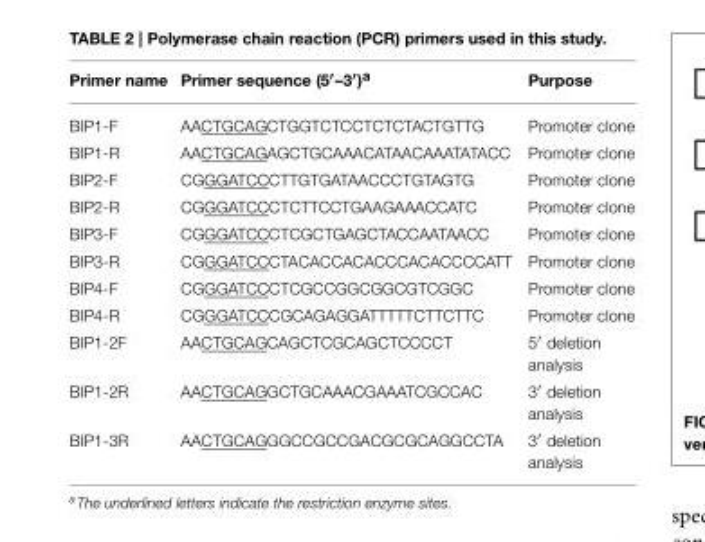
<table><thead><tr><td>Primer name</td><td>Primer sequence (5′–3′)<sup>a</sup></td><td>Purpose</td></tr></thead><tbody><tr><td>BIP1-F</td><td>AACTGCAGCTGGTCTCCTCTCTACTGTTG</td><td>Promoter clone</td></tr><tr><td>BIP1-R</td><td>AACTGCAGAGCTGCAAACATAACAAATATACC</td><td>Promoter clone</td></tr><tr><td>BIP2-F</td><td>CGGGATCCCTTGTGATAACCCTGTAGTG</td><td>Promoter clone</td></tr><tr><td>BIP2-R</td><td>CGGGATCCCTCTTCCTGAAGAAACCATC</td><td>Promoter clone</td></tr><tr><td>BIP3-F</td><td>CGGGATCCCTCGCTGAGCTACCAATAACC</td><td>Promoter clone</td></tr><tr><td>BIP3-R</td><td>CGGGATCCCTACACCACACCCACACCCCATT</td><td>Promoter clone</td></tr><tr><td>BIP4-F</td><td>CGGGATCCCTCGCCGGCGGCGTCGGC</td><td>Promoter clone</td></tr><tr><td>BIP4-R</td><td>CGGGATCCCGCAGAGGATTTTTCTTCTTC</td><td>Promoter clone</td></tr><tr><td>BIP1-2F</td><td>AACTGCAGCAGCTCGCAGCTCCCCT</td><td>5′ deletion analysis</td></tr><tr><td>BIP1-2R</td><td>AACTGCAGGCTGCAAACGAAATCGCCAC</td><td>3′ deletion analysis</td></tr><tr><td>BIP1-3R</td><td>AACTGCAGGGCCGCCGACGCGCAGGCCTA</td><td>3′ deletion analysis</td></tr></tbody></table>